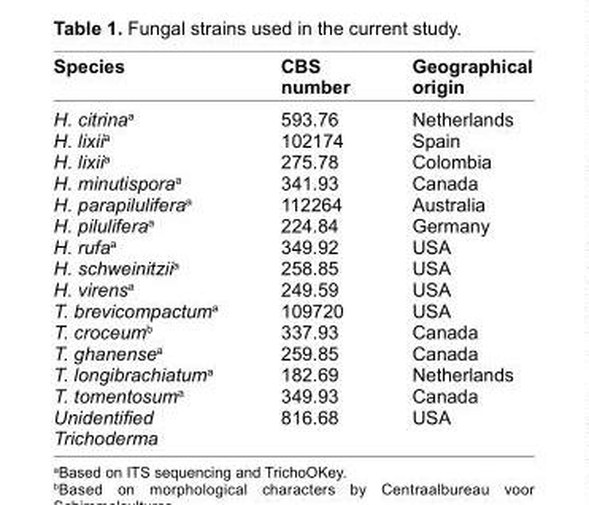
<table><thead><tr><td>species</td><td>cBs number</td><td>Geographical origin</td></tr></thead><tbody><tr><td>H. citrina<sup>a</sup></td><td>593.76</td><td>netherlands</td></tr><tr><td>H. lixii<sup>a</sup></td><td>102174</td><td>spain</td></tr><tr><td>H. lixii<sup>a</sup></td><td>275.78</td><td>colombia</td></tr><tr><td>H. minutispora<sup>a</sup></td><td>341.93</td><td>canada</td></tr><tr><td>H. parapilulifera<sup>a</sup></td><td>112264</td><td>Australia</td></tr><tr><td>H. pilulifera<sup>a</sup></td><td>224.84</td><td>germany</td></tr><tr><td>H. rufa<sup>a</sup></td><td>349.92</td><td>UsA</td></tr><tr><td>H. schweinitzii<sup>a</sup></td><td>258.85</td><td>UsA</td></tr><tr><td>H. virens<sup>a</sup></td><td>249.59</td><td>UsA</td></tr><tr><td>T. brevicompactum<sup>a</sup></td><td>109720</td><td>UsA</td></tr><tr><td>T. croceum<sup>b</sup></td><td>337.93</td><td>canada</td></tr><tr><td>T. ghanense<sup>a</sup></td><td>259.85</td><td>canada</td></tr><tr><td>T. longibrachiatum<sup>a</sup></td><td>182.69</td><td>netherlands</td></tr><tr><td>T. tomentosum<sup>a</sup></td><td>349.93</td><td>canada</td></tr><tr><td>Unidentified Trichoderma</td><td>816.68</td><td>UsA</td></tr></tbody></table>